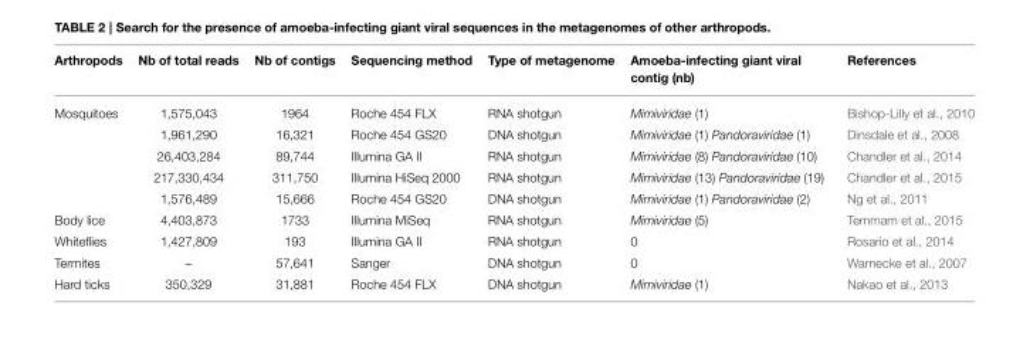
<table><thead><tr><td>Arthropods</td><td>Nb of total reads</td><td>Nb of contigs</td><td>Sequencing method</td><td>Type of metagenome</td><td>Amoeba-infecting giant viral contig (nb)</td><td>References</td></tr></thead><tbody><tr><td rowspan="5">Mosquitoes</td><td>1,575,043</td><td>1964</td><td>Roche 454 FLX</td><td>RNA shotgun</td><td>Mimiviridae (1)</td><td>Bishop-Lilly et al., 2010</td></tr><tr><td>1,961,290</td><td>16,321</td><td>Roche 454 GS20</td><td>DNA shotgun</td><td>Mimiviridae (1) Pandoraviridae (1)</td><td>Dinsdale et al., 2008</td></tr><tr><td>26,403,284</td><td>89,744</td><td>Illumina GA II</td><td>RNA shotgun</td><td>Mimiviridae (8) Pandoraviridae (10)</td><td>Chandler et al., 2014</td></tr><tr><td>217,330,434</td><td>311,750</td><td>Illumina HiSeq 2000</td><td>RNA shotgun</td><td>Mimiviridae (13) Pandoraviridae (19)</td><td>Chandler et al., 2015</td></tr><tr><td>1,576,489</td><td>15,666</td><td>Roche 454 GS20</td><td>DNA shotgun</td><td>Mimiviridae (1) Pandoraviridae (2)</td><td>Ng et al., 2011</td></tr><tr><td>Body lice</td><td>4,403,873</td><td>1733</td><td>Illumina MiSeq</td><td>RNA shotgun</td><td>Mimiviridae (5)</td><td>Temmam et al., 2015</td></tr><tr><td>Whiteflies</td><td>1,427,809</td><td>193</td><td>Illumina GA II</td><td>RNA shotgun</td><td>0</td><td>Rosario et al., 2014</td></tr><tr><td>Termites</td><td>–</td><td>57,641</td><td>Sanger</td><td>DNA shotgun</td><td>0</td><td>Warnecke et al., 2007</td></tr><tr><td>Hard ticks</td><td>350,329</td><td>31,881</td><td>Roche 454 FLX</td><td>DNA shotgun</td><td>Mimiviridae (1)</td><td>Nakao et al., 2013</td></tr></tbody></table>